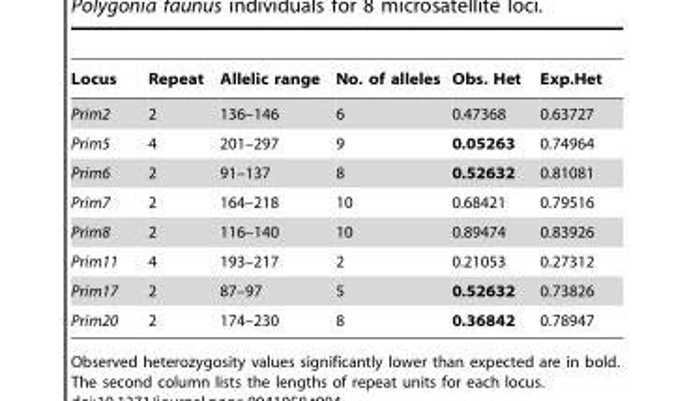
<table><thead><tr><td>Locus</td><td>Repeat</td><td>Allelic range</td><td>No. of alleles</td><td>Obs. Het</td><td>Exp.Het</td></tr></thead><tbody><tr><td>Prim2</td><td>2</td><td>136–146</td><td>6</td><td>0.47368</td><td>0.63727</td></tr><tr><td>Prim5</td><td>4</td><td>201–297</td><td>9</td><td>0.05263</td><td>0.74964</td></tr><tr><td>Prim6</td><td>2</td><td>91–137</td><td>8</td><td>0.52632</td><td>0.81081</td></tr><tr><td>Prim7</td><td>2</td><td>164–218</td><td>10</td><td>0.68421</td><td>0.79516</td></tr><tr><td>Prim8</td><td>2</td><td>116–140</td><td>10</td><td>0.89474</td><td>0.83926</td></tr><tr><td>Prim11</td><td>4</td><td>193–217</td><td>2</td><td>0.21053</td><td>0.27312</td></tr><tr><td>Prim17</td><td>2</td><td>87–97</td><td>5</td><td>0.52632</td><td>0.73826</td></tr><tr><td>Prim20</td><td>2</td><td>174–230</td><td>8</td><td>0.36842</td><td>0.78947</td></tr></tbody></table>